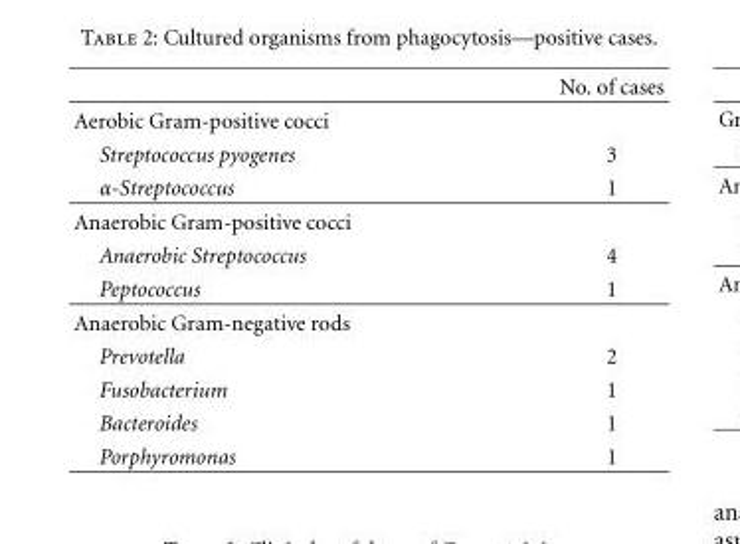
<table><thead><tr><td></td><td>No. of cases</td></tr></thead><tbody><tr><td colspan="2">Aerobic Gram-positive cocci</td></tr><tr><td>Streptococcus pyogenes</td><td>3</td></tr><tr><td>α-Streptococcus</td><td>1</td></tr><tr><td colspan="2">Anaerobic Gram-positive cocci</td></tr><tr><td>Anaerobic Streptococcus</td><td>4</td></tr><tr><td>Peptococcus</td><td>1</td></tr><tr><td colspan="2">Anaerobic Gram-negative rods</td></tr><tr><td>Prevotella</td><td>2</td></tr><tr><td>Fusobacterium</td><td>1</td></tr><tr><td>Bacteroides</td><td>1</td></tr><tr><td>Porphyromonas</td><td>1</td></tr></tbody></table>